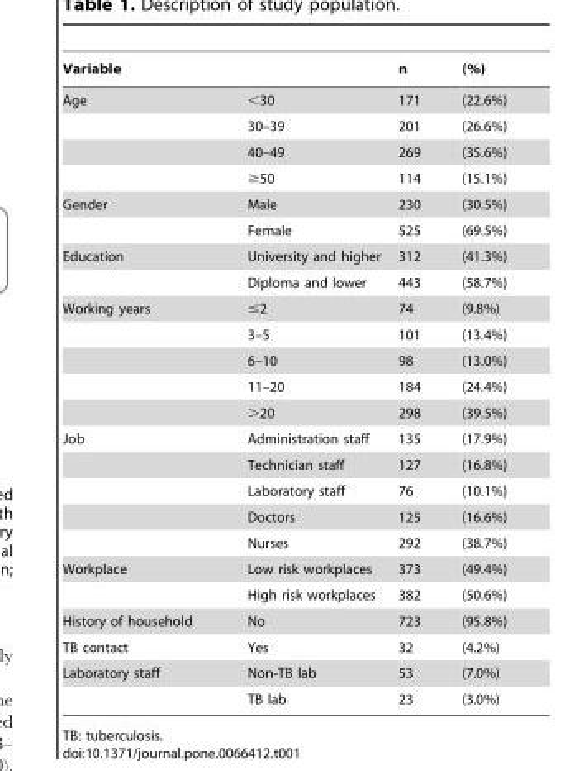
<table><thead><tr><td>Variable</td><td></td><td>n</td><td>(%)</td></tr></thead><tbody><tr><td rowspan="4">Age</td><td>&lt;30</td><td>171</td><td>(22.6%)</td></tr><tr><td>30–39</td><td>201</td><td>(26.6%)</td></tr><tr><td>40–49</td><td>269</td><td>(35.6%)</td></tr><tr><td>≥50</td><td>114</td><td>(15.1%)</td></tr><tr><td rowspan="2">Gender</td><td>Male</td><td>230</td><td>(30.5%)</td></tr><tr><td>Female</td><td>525</td><td>(69.5%)</td></tr><tr><td rowspan="2">Education</td><td>University and higher</td><td>312</td><td>(41.3%)</td></tr><tr><td>Diploma and lower</td><td>443</td><td>(58.7%)</td></tr><tr><td rowspan="5">Working years</td><td>≤2</td><td>74</td><td>(9.8%)</td></tr><tr><td>3–5</td><td>101</td><td>(13.4%)</td></tr><tr><td>6–10</td><td>98</td><td>(13.0%)</td></tr><tr><td>11–20</td><td>184</td><td>(24.4%)</td></tr><tr><td>&gt;20</td><td>298</td><td>(39.5%)</td></tr><tr><td rowspan="5">Job</td><td>Administration staff</td><td>135</td><td>(17.9%)</td></tr><tr><td>Technician staff</td><td>127</td><td>(16.8%)</td></tr><tr><td>Laboratory staff</td><td>76</td><td>(10.1%)</td></tr><tr><td>Doctors</td><td>125</td><td>(16.6%)</td></tr><tr><td>Nurses</td><td>292</td><td>(38.7%)</td></tr><tr><td rowspan="2">Workplace</td><td>Low risk workplaces</td><td>373</td><td>(49.4%)</td></tr><tr><td>High risk workplaces</td><td>382</td><td>(50.6%)</td></tr><tr><td>History of household</td><td>No</td><td>723</td><td>(95.8%)</td></tr><tr><td>TB contact</td><td>Yes</td><td>32</td><td>(4.2%)</td></tr><tr><td rowspan="2">Laboratory staff</td><td>Non-TB lab</td><td>53</td><td>(7.0%)</td></tr><tr><td>TB lab</td><td>23</td><td>(3.0%)</td></tr></tbody></table>